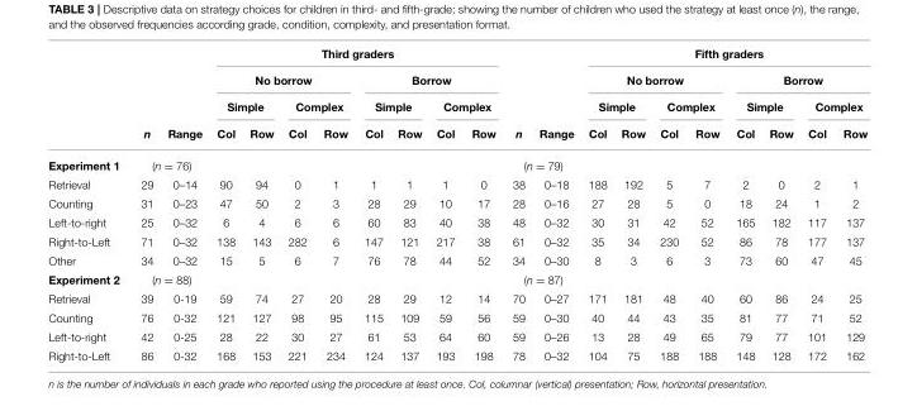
<table><thead><tr><td rowspan="4"></td><td rowspan="4">n</td><td rowspan="4">Range</td><td colspan="8">Third graders</td><td rowspan="4">n</td><td rowspan="4">Range</td><td colspan="8">Fifth graders</td></tr><tr><td colspan="4">No borrow</td><td colspan="4">Borrow</td><td colspan="4">No borrow</td><td colspan="4">Borrow</td></tr><tr><td colspan="2">Simple</td><td colspan="2">Complex</td><td colspan="2">Simple</td><td colspan="2">Complex</td><td colspan="2">Simple</td><td colspan="2">Complex</td><td colspan="2">Simple</td><td colspan="2">Complex</td></tr><tr><td>Col</td><td>Row</td><td>Col</td><td>Row</td><td>Col</td><td>Row</td><td>Col</td><td>Row</td><td>Col</td><td>Row</td><td>Col</td><td>Row</td><td>Col</td><td>Row</td><td>Col</td><td>Row</td></tr></thead><tbody><tr><td>Experiment 1</td><td colspan="2">(n = 76)</td><td></td><td></td><td></td><td></td><td></td><td></td><td></td><td></td><td colspan="2">(n = 79)</td><td></td><td></td><td></td><td></td><td></td><td></td><td></td><td></td></tr><tr><td>Retrieval</td><td>29</td><td>0–14</td><td>90</td><td>94</td><td>0</td><td>1</td><td>1</td><td>1</td><td>1</td><td>0</td><td>38</td><td>0–18</td><td>188</td><td>192</td><td>5</td><td>7</td><td>2</td><td>0</td><td>2</td><td>1</td></tr><tr><td>Counting</td><td>31</td><td>0–23</td><td>47</td><td>50</td><td>2</td><td>3</td><td>28</td><td>29</td><td>10</td><td>17</td><td>28</td><td>0–16</td><td>27</td><td>28</td><td>5</td><td>0</td><td>18</td><td>24</td><td>1</td><td>2</td></tr><tr><td>Left-to-right</td><td>25</td><td>0–32</td><td>6</td><td>4</td><td>6</td><td>6</td><td>60</td><td>83</td><td>40</td><td>38</td><td>48</td><td>0–32</td><td>30</td><td>31</td><td>42</td><td>52</td><td>165</td><td>182</td><td>117</td><td>137</td></tr><tr><td>Right-to-Left</td><td>71</td><td>0–32</td><td>138</td><td>143</td><td>282</td><td>6</td><td>147</td><td>121</td><td>217</td><td>38</td><td>61</td><td>0–32</td><td>35</td><td>34</td><td>230</td><td>52</td><td>86</td><td>78</td><td>177</td><td>137</td></tr><tr><td>Other</td><td>34</td><td>0–32</td><td>15</td><td>5</td><td>6</td><td>7</td><td>76</td><td>78</td><td>44</td><td>52</td><td>34</td><td>0–30</td><td>8</td><td>3</td><td>6</td><td>3</td><td>73</td><td>60</td><td>47</td><td>45</td></tr><tr><td>Experiment 2</td><td colspan="2">(n = 88)</td><td></td><td></td><td></td><td></td><td></td><td></td><td></td><td></td><td colspan="2">(n = 87)</td><td></td><td></td><td></td><td></td><td></td><td></td><td></td><td></td></tr><tr><td>Retrieval</td><td>39</td><td>0-19</td><td>59</td><td>74</td><td>27</td><td>20</td><td>28</td><td>29</td><td>12</td><td>14</td><td>70</td><td>0–27</td><td>171</td><td>181</td><td>48</td><td>40</td><td>60</td><td>86</td><td>24</td><td>25</td></tr><tr><td>Counting</td><td>76</td><td>0-32</td><td>121</td><td>127</td><td>98</td><td>95</td><td>115</td><td>109</td><td>59</td><td>56</td><td>59</td><td>0–30</td><td>40</td><td>44</td><td>43</td><td>35</td><td>81</td><td>77</td><td>71</td><td>52</td></tr><tr><td>Left-to-right</td><td>42</td><td>0-25</td><td>28</td><td>22</td><td>30</td><td>27</td><td>61</td><td>53</td><td>64</td><td>60</td><td>59</td><td>0–26</td><td>13</td><td>28</td><td>49</td><td>65</td><td>79</td><td>77</td><td>101</td><td>129</td></tr><tr><td>Right-to-Left</td><td>86</td><td>0-32</td><td>168</td><td>153</td><td>221</td><td>234</td><td>124</td><td>137</td><td>193</td><td>198</td><td>78</td><td>0–32</td><td>104</td><td>75</td><td>188</td><td>188</td><td>148</td><td>128</td><td>172</td><td>162</td></tr></tbody></table>